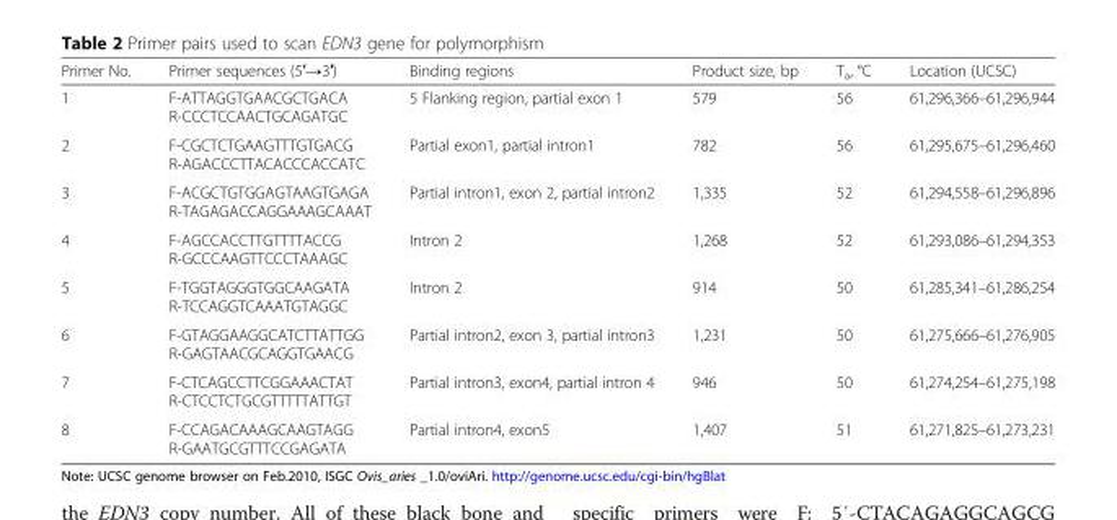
<table><thead><tr><td>Primer No.</td><td>Primer sequences (5′→3′)</td><td>Binding regions</td><td>Product size, bp</td><td>T<sub>a</sub>, °C</td><td>Location (UCSC)</td></tr></thead><tbody><tr><td>1</td><td>F-ATTAGGTGAACGCTGACA R-CCCTCCAACTGCAGATGC</td><td>5 Flanking region, partial exon 1</td><td>579</td><td>56</td><td>61,296,366–61,296,944</td></tr><tr><td>2</td><td>F-CGCTCTGAAGTTTGTGACG R-AGACCCTTACACCCACCATC</td><td>Partial exon1, partial intron1</td><td>782</td><td>56</td><td>61,295,675–61,296,460</td></tr><tr><td>3</td><td>F-ACGCTGTGGAGTAAGTGAGA R-TAGAGACCAGGAAAGCAAAT</td><td>Partial intron1, exon 2, partial intron2</td><td>1,335</td><td>52</td><td>61,294,558–61,296,896</td></tr><tr><td>4</td><td>F-AGCCACCTTGTTTTACCG R-GCCCAAGTTCCCTAAAGC</td><td>Intron 2</td><td>1,268</td><td>52</td><td>61,293,086–61,294,353</td></tr><tr><td>5</td><td>F-TGGTAGGGTGGCAAGATA R-TCCAGGTCAAATGTAGGC</td><td>Intron 2</td><td>914</td><td>50</td><td>61,285,341–61,286,254</td></tr><tr><td>6</td><td>F-GTAGGAAGGCATCTTATTGG R-GAGTAACGCAGGTGAACG</td><td>Partial intron2, exon 3, partial intron3</td><td>1,231</td><td>50</td><td>61,275,666–61,276,905</td></tr><tr><td>7</td><td>F-CTCAGCCTTCGGAAACTAT R-CTCCTCTGCGTTTTTATTGT</td><td>Partial intron3, exon4, partial intron 4</td><td>946</td><td>50</td><td>61,274,254–61,275,198</td></tr><tr><td>8</td><td>F-CCAGACAAAGCAAGTAGG R-GAATGCGTTTCCGAGATA</td><td>Partial intron4, exon5</td><td>1,407</td><td>51</td><td>61,271,825–61,273,231</td></tr></tbody></table>